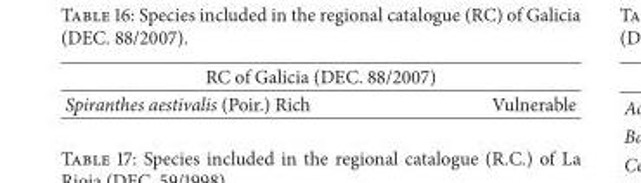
<table><thead><tr><td colspan="2">RC of Galicia (DEC. 88/2007)</td></tr><tr><td>Spiranthes aestivalis (Poir.) Rich</td><td>Vulnerable</td></tr></thead><tbody></tbody></table>